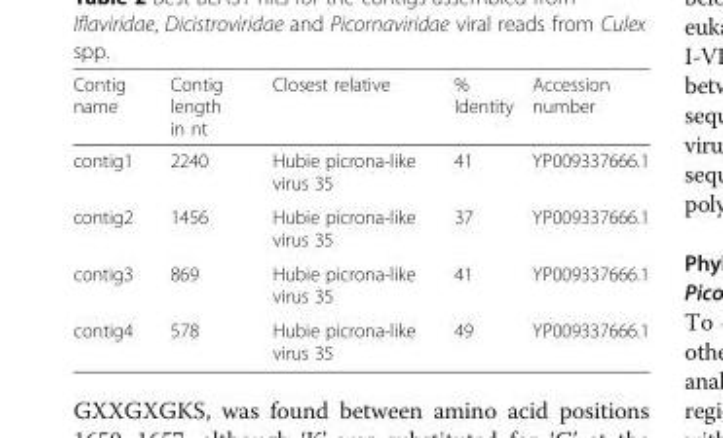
<table><thead><tr><td>Contig name</td><td>Contig length in nt</td><td>Closest relative</td><td>% Identity</td><td>Accession number</td></tr></thead><tbody><tr><td>contig1</td><td>2240</td><td>Hubie picrona-like virus 35</td><td>41</td><td>YP009337666.1</td></tr><tr><td>contig2</td><td>1456</td><td>Hubie picrona-like virus 35</td><td>37</td><td>YP009337666.1</td></tr><tr><td>contig3</td><td>869</td><td>Hubie picrona-like virus 35</td><td>41</td><td>YP009337666.1</td></tr><tr><td>contig4</td><td>578</td><td>Hubie picrona-like virus 35</td><td>49</td><td>YP009337666.1</td></tr></tbody></table>